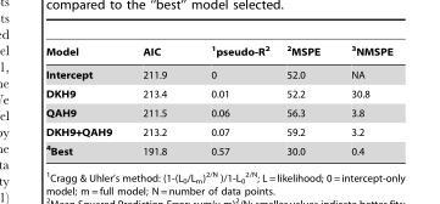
<table><thead><tr><td>Model</td><td>AIC</td><td>1pseudo-R<sup>2</sup></td><td>2MSPE</td><td>3NMSPE</td></tr></thead><tbody><tr><td>Intercept</td><td>211.9</td><td>0</td><td>52.0</td><td>NA</td></tr><tr><td>DKH9</td><td>213.4</td><td>0.01</td><td>52.2</td><td>30.8</td></tr><tr><td>QAH9</td><td>211.5</td><td>0.06</td><td>56.3</td><td>3.8</td></tr><tr><td>DKH9+QAH9</td><td>213.2</td><td>0.07</td><td>59.2</td><td>3.2</td></tr><tr><td>4Best</td><td>191.8</td><td>0.57</td><td>30.0</td><td>0.4</td></tr></tbody></table>